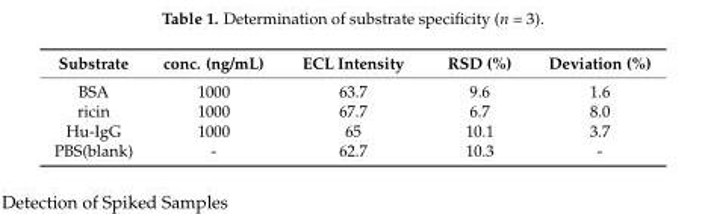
<table><thead><tr><td>Substrate</td><td>conc. (ng/mL)</td><td>ECL Intensity</td><td>RSD (%)</td><td>Deviation (%)</td></tr></thead><tbody><tr><td>BSA</td><td>1000</td><td>63.7</td><td>9.6</td><td>1.6</td></tr><tr><td>ricin</td><td>1000</td><td>67.7</td><td>6.7</td><td>8.0</td></tr><tr><td>Hu-IgG</td><td>1000</td><td>65</td><td>10.1</td><td>3.7</td></tr><tr><td>PBS(blank)</td><td>-</td><td>62.7</td><td>10.3</td><td>-</td></tr></tbody></table>